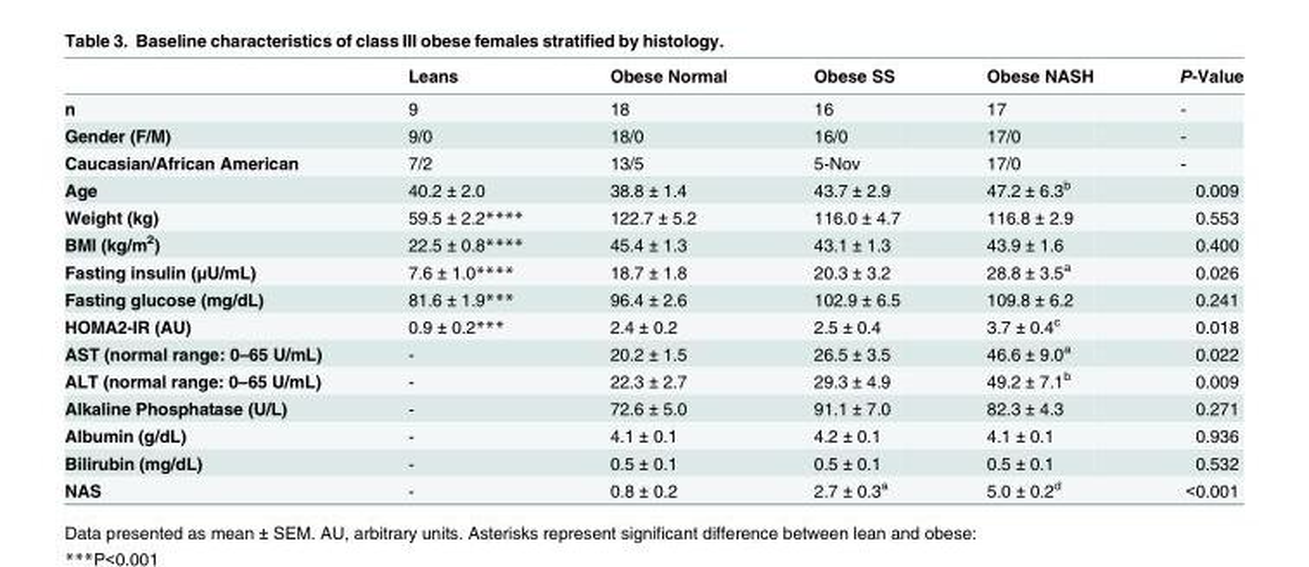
<table><thead><tr><td></td><td>Leans</td><td>Obese Normal</td><td>Obese SS</td><td>Obese NASH</td><td>P-Value</td></tr></thead><tbody><tr><td>n</td><td>9</td><td>18</td><td>16</td><td>17</td><td>-</td></tr><tr><td>Gender (F/M)</td><td>9/0</td><td>18/0</td><td>16/0</td><td>17/0</td><td>-</td></tr><tr><td>Caucasian/African American</td><td>7/2</td><td>13/5</td><td>5-Nov</td><td>17/0</td><td>-</td></tr><tr><td>Age</td><td>40.2 ± 2.0</td><td>38.8 ± 1.4</td><td>43.7 ± 2.9</td><td>47.2 ± 6.3<sup>b</sup></td><td>0.009</td></tr><tr><td>Weight (kg)</td><td>59.5 ± 2.2****</td><td>122.7 ± 5.2</td><td>116.0 ± 4.7</td><td>116.8 ± 2.9</td><td>0.553</td></tr><tr><td>BMI (kg/m<sup>2</sup>)</td><td>22.5 ± 0.8****</td><td>45.4 ± 1.3</td><td>43.1 ± 1.3</td><td>43.9 ± 1.6</td><td>0.400</td></tr><tr><td>Fasting insulin (μU/mL)</td><td>7.6 ± 1.0****</td><td>18.7 ± 1.8</td><td>20.3 ± 3.2</td><td>28.8 ± 3.5<sup>a</sup></td><td>0.026</td></tr><tr><td>Fasting glucose (mg/dL)</td><td>81.6 ± 1.9***</td><td>96.4 ± 2.6</td><td>102.9 ± 6.5</td><td>109.8 ± 6.2</td><td>0.241</td></tr><tr><td>HOMA2-IR (AU)</td><td>0.9 ± 0.2***</td><td>2.4 ± 0.2</td><td>2.5 ± 0.4</td><td>3.7 ± 0.4<sup>c</sup></td><td>0.018</td></tr><tr><td>AST (normal range: 0–65 U/mL)</td><td>-</td><td>20.2 ± 1.5</td><td>26.5 ± 3.5</td><td>46.6 ± 9.0<sup>a</sup></td><td>0.022</td></tr><tr><td>ALT (normal range: 0–65 U/mL)</td><td>-</td><td>22.3 ± 2.7</td><td>29.3 ± 4.9</td><td>49.2 ± 7.1<sup>b</sup></td><td>0.009</td></tr><tr><td>Alkaline Phosphatase (U/L)</td><td>-</td><td>72.6 ± 5.0</td><td>91.1 ± 7.0</td><td>82.3 ± 4.3</td><td>0.271</td></tr><tr><td>Albumin (g/dL)</td><td>-</td><td>4.1 ± 0.1</td><td>4.2 ± 0.1</td><td>4.1 ± 0.1</td><td>0.936</td></tr><tr><td>Bilirubin (mg/dL)</td><td>-</td><td>0.5 ± 0.1</td><td>0.5 ± 0.1</td><td>0.5 ± 0.1</td><td>0.532</td></tr><tr><td>NAS</td><td>-</td><td>0.8 ± 0.2</td><td>2.7 ± 0.3<sup>a</sup></td><td>5.0 ± 0.2<sup>d</sup></td><td>&lt;0.001</td></tr></tbody></table>